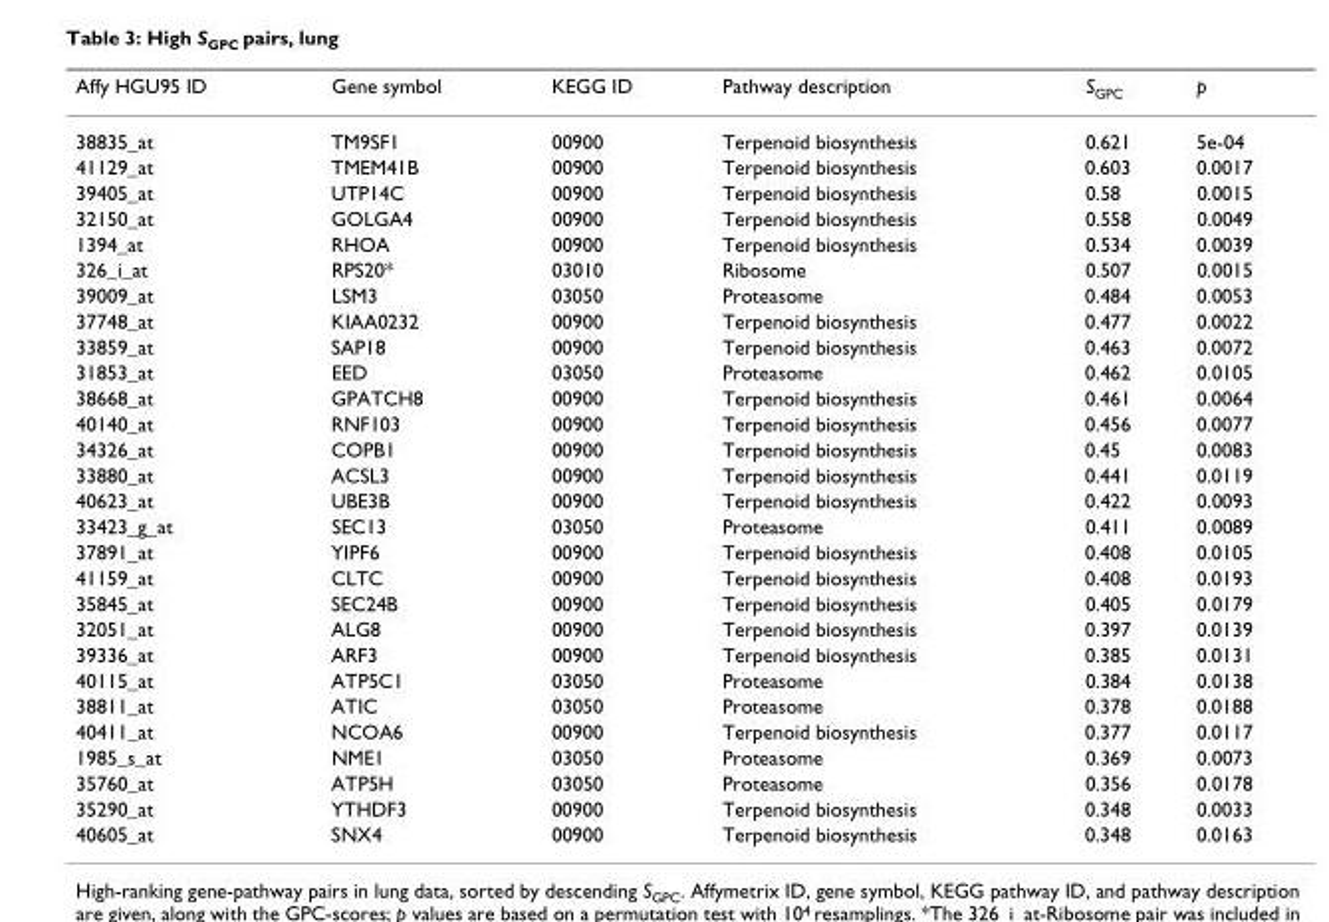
<table><thead><tr><td>Affy HGU95 ID</td><td>Gene symbol</td><td>KEGG ID</td><td>Pathway description</td><td>S<sub>GPC</sub></td><td>p</td></tr></thead><tbody><tr><td>38835_at</td><td>TM9SF1</td><td>00900</td><td>Terpenoid biosynthesis</td><td>0.621</td><td>5e-04</td></tr><tr><td>41129_at</td><td>TMEM41B</td><td>00900</td><td>Terpenoid biosynthesis</td><td>0.603</td><td>0.0017</td></tr><tr><td>39405_at</td><td>UTP14C</td><td>00900</td><td>Terpenoid biosynthesis</td><td>0.58</td><td>0.0015</td></tr><tr><td>32150_at</td><td>GOLGA4</td><td>00900</td><td>Terpenoid biosynthesis</td><td>0.558</td><td>0.0049</td></tr><tr><td>1394_at</td><td>RHOA</td><td>00900</td><td>Terpenoid biosynthesis</td><td>0.534</td><td>0.0039</td></tr><tr><td>326_i_at</td><td>RPS20*</td><td>03010</td><td>Ribosome</td><td>0.507</td><td>0.0015</td></tr><tr><td>39009_at</td><td>LSM3</td><td>03050</td><td>Proteasome</td><td>0.484</td><td>0.0053</td></tr><tr><td>37748_at</td><td>KIAA0232</td><td>00900</td><td>Terpenoid biosynthesis</td><td>0.477</td><td>0.0022</td></tr><tr><td>33859_at</td><td>SAP18</td><td>00900</td><td>Terpenoid biosynthesis</td><td>0.463</td><td>0.0072</td></tr><tr><td>31853_at</td><td>EED</td><td>03050</td><td>Proteasome</td><td>0.462</td><td>0.0105</td></tr><tr><td>38668_at</td><td>GPATCH8</td><td>00900</td><td>Terpenoid biosynthesis</td><td>0.461</td><td>0.0064</td></tr><tr><td>40140_at</td><td>RNF103</td><td>00900</td><td>Terpenoid biosynthesis</td><td>0.456</td><td>0.0077</td></tr><tr><td>34326_at</td><td>COPB1</td><td>00900</td><td>Terpenoid biosynthesis</td><td>0.45</td><td>0.0083</td></tr><tr><td>33880_at</td><td>ACSL3</td><td>00900</td><td>Terpenoid biosynthesis</td><td>0.441</td><td>0.0119</td></tr><tr><td>40623_at</td><td>UBE3B</td><td>00900</td><td>Terpenoid biosynthesis</td><td>0.422</td><td>0.0093</td></tr><tr><td>33423_g_at</td><td>SEC13</td><td>03050</td><td>Proteasome</td><td>0.411</td><td>0.0089</td></tr><tr><td>37891_at</td><td>YIPF6</td><td>00900</td><td>Terpenoid biosynthesis</td><td>0.408</td><td>0.0105</td></tr><tr><td>41159_at</td><td>CLTC</td><td>00900</td><td>Terpenoid biosynthesis</td><td>0.408</td><td>0.0193</td></tr><tr><td>35845_at</td><td>SEC24B</td><td>00900</td><td>Terpenoid biosynthesis</td><td>0.405</td><td>0.0179</td></tr><tr><td>32051_at</td><td>ALG8</td><td>00900</td><td>Terpenoid biosynthesis</td><td>0.397</td><td>0.0139</td></tr><tr><td>39336_at</td><td>ARF3</td><td>00900</td><td>Terpenoid biosynthesis</td><td>0.385</td><td>0.0131</td></tr><tr><td>40115_at</td><td>ATP5C1</td><td>03050</td><td>Proteasome</td><td>0.384</td><td>0.0138</td></tr><tr><td>38811_at</td><td>ATIC</td><td>03050</td><td>Proteasome</td><td>0.378</td><td>0.0188</td></tr><tr><td>40411_at</td><td>NCOA6</td><td>00900</td><td>Terpenoid biosynthesis</td><td>0.377</td><td>0.0117</td></tr><tr><td>1985_s_at</td><td>NME1</td><td>03050</td><td>Proteasome</td><td>0.369</td><td>0.0073</td></tr><tr><td>35760_at</td><td>ATP5H</td><td>03050</td><td>Proteasome</td><td>0.356</td><td>0.0178</td></tr><tr><td>35290_at</td><td>YTHDF3</td><td>00900</td><td>Terpenoid biosynthesis</td><td>0.348</td><td>0.0033</td></tr><tr><td>40605_at</td><td>SNX4</td><td>00900</td><td>Terpenoid biosynthesis</td><td>0.348</td><td>0.0163</td></tr></tbody></table>